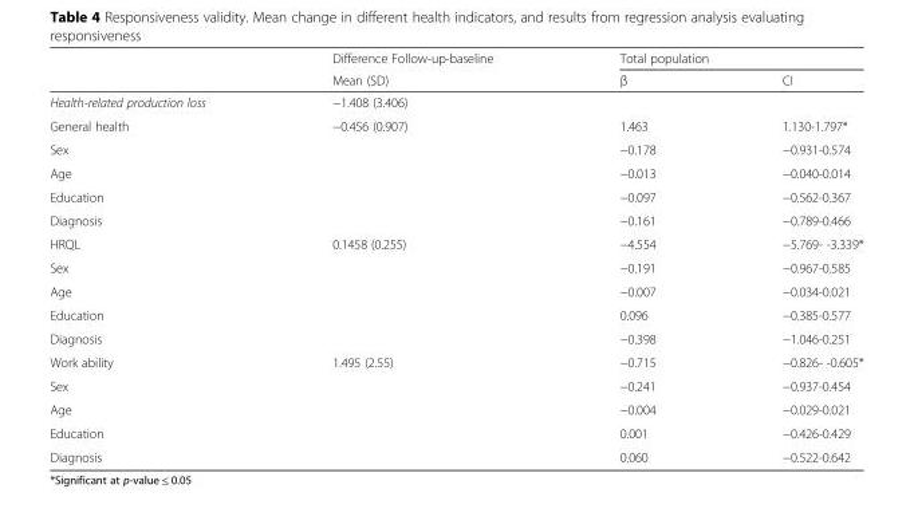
<table><thead><tr><td rowspan="2"></td><td rowspan="2">Difference Follow-up-baseline Mean (SD)</td><td colspan="2">Total population</td></tr><tr><td>β</td><td>CI</td></tr></thead><tbody><tr><td>Health-related production loss</td><td>−1.408 (3.406)</td><td></td><td></td></tr><tr><td>General health</td><td>−0.456 (0.907)</td><td>1.463</td><td>1.130-1.797*</td></tr><tr><td>Sex</td><td></td><td>−0.178</td><td>−0.931-0.574</td></tr><tr><td>Age</td><td></td><td>−0.013</td><td>−0.040-0.014</td></tr><tr><td>Education</td><td></td><td>−0.097</td><td>−0.562-0.367</td></tr><tr><td>Diagnosis</td><td></td><td>−0.161</td><td>−0.789-0.466</td></tr><tr><td>HRQL</td><td>0.1458 (0.255)</td><td>−4.554</td><td>−5.769- -3.339*</td></tr><tr><td>Sex</td><td></td><td>−0.191</td><td>−0.967-0.585</td></tr><tr><td>Age</td><td></td><td>−0.007</td><td>−0.034-0.021</td></tr><tr><td>Education</td><td></td><td>0.096</td><td>−0.385-0.577</td></tr><tr><td>Diagnosis</td><td></td><td>−0.398</td><td>−1.046-0.251</td></tr><tr><td>Work ability</td><td>1.495 (2.55)</td><td>−0.715</td><td>−0.826- -0.605*</td></tr><tr><td>Sex</td><td></td><td>−0.241</td><td>−0.937-0.454</td></tr><tr><td>Age</td><td></td><td>−0.004</td><td>−0.029-0.021</td></tr><tr><td>Education</td><td></td><td>0.001</td><td>−0.426-0.429</td></tr><tr><td>Diagnosis</td><td></td><td>0.060</td><td>−0.522-0.642</td></tr></tbody></table>